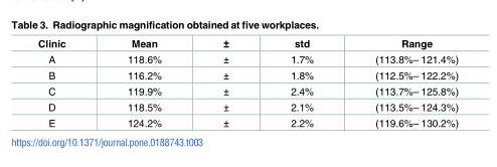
<table><thead><tr><td>Clinic</td><td>Mean</td><td>±</td><td>std</td><td>Range</td></tr></thead><tbody><tr><td>A</td><td>118.6%</td><td>±</td><td>1.7%</td><td>(113.8%– 121.4%)</td></tr><tr><td>B</td><td>116.2%</td><td>±</td><td>1.8%</td><td>(112.5%– 122.2%)</td></tr><tr><td>C</td><td>119.9%</td><td>±</td><td>2.4%</td><td>(113.7%– 125.8%)</td></tr><tr><td>D</td><td>118.5%</td><td>±</td><td>2.1%</td><td>(113.5%– 124.3%)</td></tr><tr><td>E</td><td>124.2%</td><td>±</td><td>2.2%</td><td>(119.6%– 130.2%)</td></tr></tbody></table>